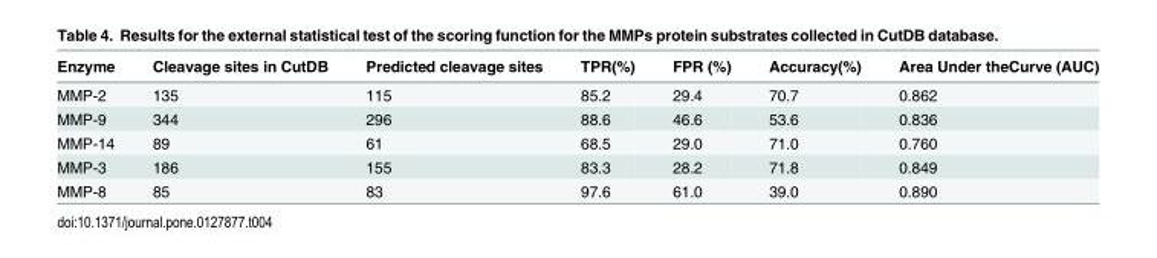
<table><thead><tr><td>Enzyme</td><td>Cleavage sites in CutDB</td><td>Predicted cleavage sites</td><td>TPR(%)</td><td>FPR (%)</td><td>Accuracy(%)</td><td>Area Under theCurve (AUC)</td></tr></thead><tbody><tr><td>MMP-2</td><td>135</td><td>115</td><td>85.2</td><td>29.4</td><td>70.7</td><td>0.862</td></tr><tr><td>MMP-9</td><td>344</td><td>296</td><td>88.6</td><td>46.6</td><td>53.6</td><td>0.836</td></tr><tr><td>MMP-14</td><td>89</td><td>61</td><td>68.5</td><td>29.0</td><td>71.0</td><td>0.760</td></tr><tr><td>MMP-3</td><td>186</td><td>155</td><td>83.3</td><td>28.2</td><td>71.8</td><td>0.849</td></tr><tr><td>MMP-8</td><td>85</td><td>83</td><td>97.6</td><td>61.0</td><td>39.0</td><td>0.890</td></tr></tbody></table>